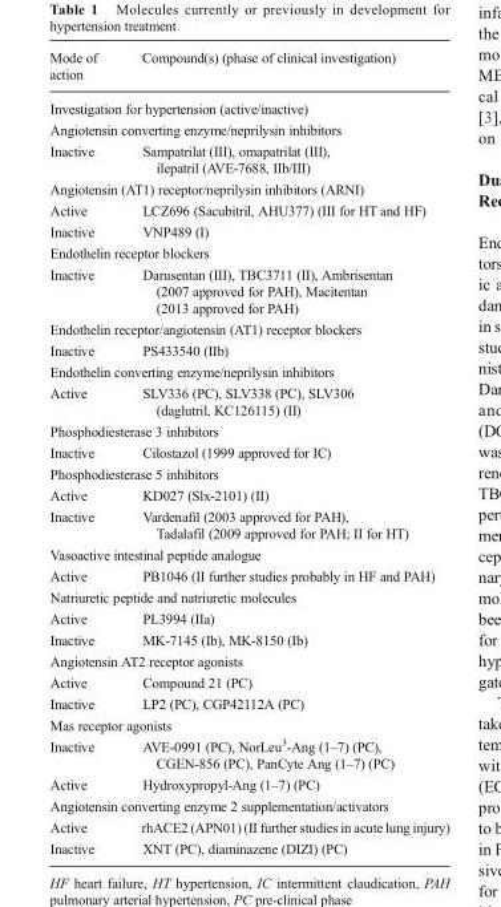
<table><thead><tr><td>Mode of action</td><td>Compound(s) (phase of clinical investigation)</td></tr></thead><tbody><tr><td colspan="2">Investigation for hypertension (active/inactive)</td></tr><tr><td colspan="2">Angiotensin converting enzyme/neprilysin inhibitors</td></tr><tr><td>Inactive</td><td>Sampatrilat (III), omapatrilat (III), ilepatril (AVE-7688, IIb/III)</td></tr><tr><td colspan="2">Angiotensin (AT1) receptor/neprilysin inhibitors (ARNI)</td></tr><tr><td>Active</td><td>LCZ696 (Sacubitril, AHU377) (III for HT and HF)</td></tr><tr><td>Inactive</td><td>VNP489 (I)</td></tr><tr><td colspan="2">Endothelin receptor blockers</td></tr><tr><td>Inactive</td><td>Darusentan (III), TBC3711 (II), Ambrisentan (2007 approved for PAH), Macitentan (2013 approved for PAH)</td></tr><tr><td colspan="2">Endothelin receptor/angiotensin (AT1) receptor blockers</td></tr><tr><td>Inactive</td><td>PS433540 (IIb)</td></tr><tr><td colspan="2">Endothelin converting enzyme/neprilysin inhibitors</td></tr><tr><td>Active</td><td>SLV336 (PC), SLV338 (PC), SLV306 (daglutril, KC126115) (II)</td></tr><tr><td colspan="2">Phosphodiesterase 3 inhibitors</td></tr><tr><td>Inactive</td><td>Cilostazol (1999 approved for IC)</td></tr><tr><td colspan="2">Phosphodiesterase 5 inhibitors</td></tr><tr><td>Active</td><td>KD027 (Slx-2101) (II)</td></tr><tr><td>Inactive</td><td>Vardenafil (2003 approved for PAH), Tadalafil (2009 approved for PAH; II for HT)</td></tr><tr><td colspan="2">Vasoactive intestinal peptide analogue</td></tr><tr><td>Active</td><td>PB1046 (II further studies probably in HF and PAH)</td></tr><tr><td colspan="2">Natriuretic peptide and natriuretic molecules</td></tr><tr><td>Active</td><td>PL3994 (IIa)</td></tr><tr><td>Inactive</td><td>MK-7145 (Ib), MK-8150 (Ib)</td></tr><tr><td colspan="2">Angiotensin AT2 receptor agonists</td></tr><tr><td>Active</td><td>Compound 21 (PC)</td></tr><tr><td>Inactive</td><td>LP2 (PC), CGP42112A (PC)</td></tr><tr><td colspan="2">Mas receptor agonists</td></tr><tr><td>Inactive</td><td>AVE-0991 (PC), NorLeu<sup>3</sup>-Ang (1–7) (PC), CGEN-856 (PC), PanCyte Ang (1–7) (PC)</td></tr><tr><td>Active</td><td>Hydroxypropyl-Ang (1–7) (PC)</td></tr><tr><td colspan="2">Angiotensin converting enzyme 2 supplementation/activators</td></tr><tr><td>Active</td><td>rhACE2 (APN01) (II further studies in acute lung injury)</td></tr><tr><td>Inactive</td><td>XNT (PC), diaminazene (DIZI) (PC)</td></tr></tbody></table>